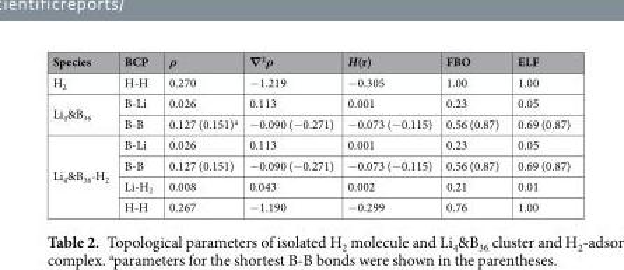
<table><thead><tr><td>Species</td><td>BCP</td><td>ρ</td><td>∇<sup>2</sup>ρ</td><td>H(r)</td><td>FBO</td><td>ELF</td></tr></thead><tbody><tr><td>H<sub>2</sub></td><td>H-H</td><td>0.270</td><td>−1.219</td><td>−0.305</td><td>1.00</td><td>1.00</td></tr><tr><td rowspan="2">Li<sub>4</sub>&amp;B<sub>36</sub></td><td>B-Li</td><td>0.026</td><td>0.113</td><td>0.001</td><td>0.23</td><td>0.05</td></tr><tr><td>B-B</td><td>0.127 (0.151)<sup>a</sup></td><td>−0.090 (−0.271)</td><td>−0.073 (−0.115)</td><td>0.56 (0.87)</td><td>0.69 (0.87)</td></tr><tr><td rowspan="4">Li<sub>4</sub>&amp;B<sub>36</sub>-H<sub>2</sub></td><td>B-Li</td><td>0.026</td><td>0.113</td><td>0.001</td><td>0.23</td><td>0.05</td></tr><tr><td>B-B</td><td>0.127 (0.151)</td><td>−0.090 (−0.271)</td><td>−0.073 (−0.115)</td><td>0.56 (0.87)</td><td>0.69 (0.87)</td></tr><tr><td>Li-H<sub>2</sub></td><td>0.008</td><td>0.043</td><td>0.002</td><td>0.21</td><td>0.01</td></tr><tr><td>H-H</td><td>0.267</td><td>−1.190</td><td>−0.299</td><td>0.76</td><td>1.00</td></tr></tbody></table>